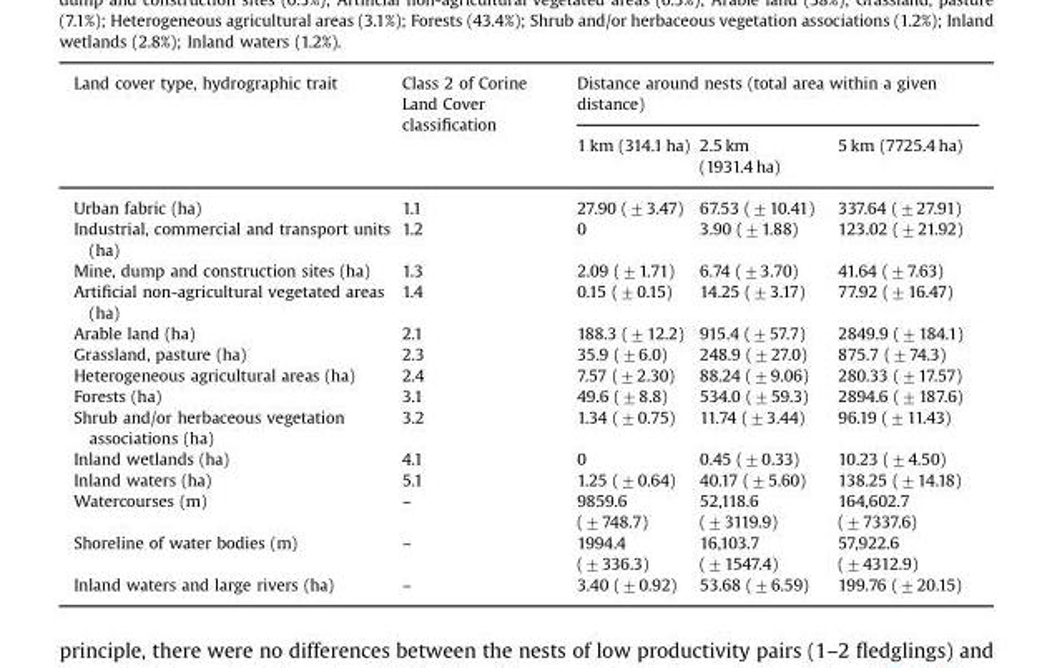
<table><thead><tr><td rowspan="2">Land cover type, hydrographic trait</td><td rowspan="2">Class 2 of Corine Land Cover classification</td><td colspan="3">Distance around nests (total area within a given distance)</td></tr><tr><td>1 km (314.1 ha)</td><td>2.5 km (1931.4 ha)</td><td>5 km (7725.4 ha)</td></tr></thead><tbody><tr><td>Urban fabric (ha)</td><td>1.1</td><td>27.90 (±3.47)</td><td>67.53 (±10.41)</td><td>337.64 (±27.91)</td></tr><tr><td>Industrial, commercial and transport units (ha)</td><td>1.2</td><td>0</td><td>3.90 (±1.88)</td><td>123.02 (±21.92)</td></tr><tr><td>Mine, dump and construction sites (ha)</td><td>1.3</td><td>2.09 (±1.71)</td><td>6.74 (±3.70)</td><td>41.64 (±7.63)</td></tr><tr><td>Artificial non-agricultural vegetated areas (ha)</td><td>1.4</td><td>0.15 (±0.15)</td><td>14.25 (±3.17)</td><td>77.92 (±16.47)</td></tr><tr><td>Arable land (ha)</td><td>2.1</td><td>188.3 (±12.2)</td><td>915.4 (±57.7)</td><td>2849.9 (±184.1)</td></tr><tr><td>Grassland, pasture (ha)</td><td>2.3</td><td>35.9 (±6.0)</td><td>248.9 (±27.0)</td><td>875.7 (±74.3)</td></tr><tr><td>Heterogeneous agricultural areas (ha)</td><td>2.4</td><td>7.57 (±2.30)</td><td>88.24 (±9.06)</td><td>280.33 (±17.57)</td></tr><tr><td>Forests (ha)</td><td>3.1</td><td>49.6 (±8.8)</td><td>534.0 (±59.3)</td><td>2894.6 (±187.6)</td></tr><tr><td>Shrub and/or herbaceous vegetation associations (ha)</td><td>3.2</td><td>1.34 (±0.75)</td><td>11.74 (±3.44)</td><td>96.19 (±11.43)</td></tr><tr><td>Inland wetlands (ha)</td><td>4.1</td><td>0</td><td>0.45 (±0.33)</td><td>10.23 (±4.50)</td></tr><tr><td>Inland waters (ha)</td><td>5.1</td><td>1.25 (±0.64)</td><td>40.17 (±5.60)</td><td>138.25 (±14.18)</td></tr><tr><td>Watercourses (m)</td><td>–</td><td>9859.6 (±748.7)</td><td>52,118.6 (±3119.9)</td><td>164,602.7 (±7337.6)</td></tr><tr><td>Shoreline of water bodies (m)</td><td>–</td><td>1994.4 (±336.3)</td><td>16,103.7 (±1547.4)</td><td>57,922.6 (±4312.9)</td></tr><tr><td>Inland waters and large rivers (ha)</td><td>–</td><td>3.40 (±0.92)</td><td>53.68 (±6.59)</td><td>199.76 (±20.15)</td></tr></tbody></table>